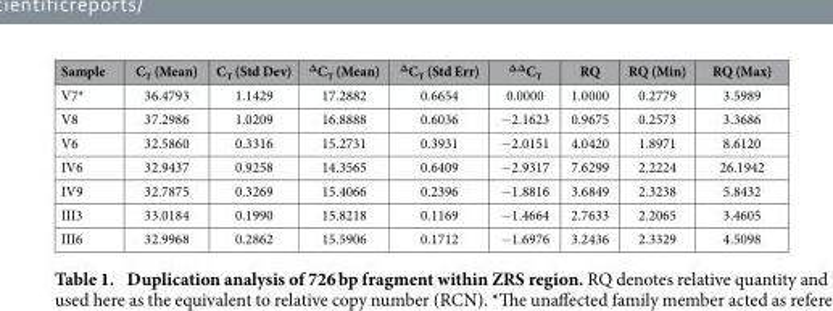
<table><thead><tr><td>Sample</td><td>C<sub>T</sub> (Mean)</td><td>C<sub>T</sub> (Std Dev)</td><td><sup>Δ</sup>C<sub>T</sub> (Mean)</td><td><sup>Δ</sup>C<sub>T</sub> (Std Err)</td><td><sup>ΔΔ</sup>C<sub>T</sub></td><td>RQ</td><td>RQ (Min)</td><td>RQ (Max)</td></tr></thead><tbody><tr><td>V7*</td><td>36.4793</td><td>1.1429</td><td>17.2882</td><td>0.6654</td><td>0.0000</td><td>1.0000</td><td>0.2779</td><td>3.5989</td></tr><tr><td>V8</td><td>37.2986</td><td>1.0209</td><td>16.8888</td><td>0.6036</td><td>− 2.1623</td><td>0.9675</td><td>0.2573</td><td>3.3686</td></tr><tr><td>V6</td><td>32.5860</td><td>0.3316</td><td>15.2731</td><td>0.3931</td><td>− 2.0151</td><td>4.0420</td><td>1.8971</td><td>8.6120</td></tr><tr><td>IV6</td><td>32.9437</td><td>0.9258</td><td>14.3565</td><td>0.6409</td><td>− 2.9317</td><td>7.6299</td><td>2.2224</td><td>26.1942</td></tr><tr><td>IV9</td><td>32.7875</td><td>0.3269</td><td>15.4066</td><td>0.2396</td><td>− 1.8816</td><td>3.6849</td><td>2.3238</td><td>5.8432</td></tr><tr><td>III3</td><td>33.0184</td><td>0.1990</td><td>15.8218</td><td>0.1169</td><td>− 1.4664</td><td>2.7633</td><td>2.2065</td><td>3.4605</td></tr><tr><td>III6</td><td>32.9968</td><td>0.2862</td><td>15.5906</td><td>0.1712</td><td>− 1.6976</td><td>3.2436</td><td>2.3329</td><td>4.5098</td></tr></tbody></table>